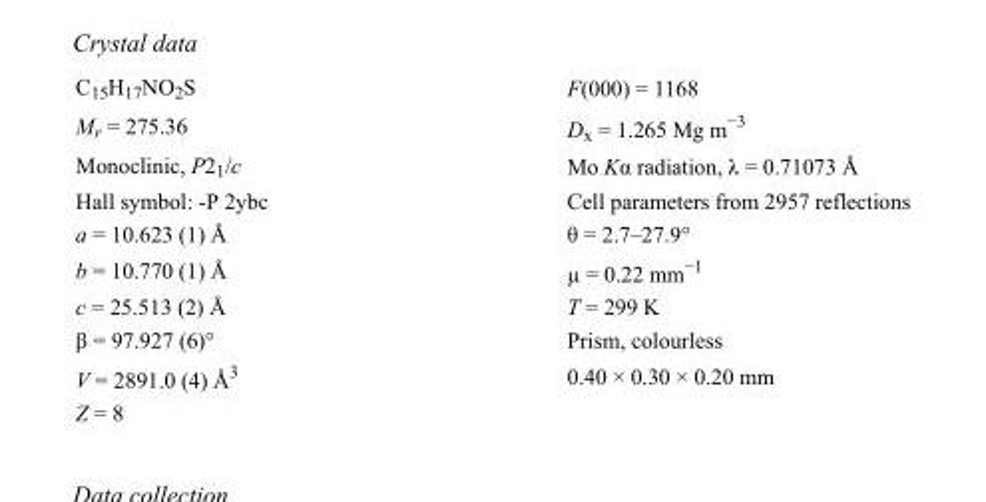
<table><tbody><tr><td>C<sub>15</sub>H<sub>17</sub>NO<sub>2</sub>S</td><td>F(000) = 1168</td></tr><tr><td>M<sub>r</sub> = 275.36</td><td>D<sub>x</sub> = 1.265 Mg m<sup>−3</sup></td></tr><tr><td>Monoclinic, P2<sub>1</sub>/c</td><td>Mo Kα radiation, λ = 0.71073 Å</td></tr><tr><td>Hall symbol: -P 2ybc</td><td>Cell parameters from 2957 reflections</td></tr><tr><td>a = 10.623 (1) Å</td><td>θ = 2.7–27.9°</td></tr><tr><td>b = 10.770 (1) Å</td><td>µ = 0.22 mm<sup>−1</sup></td></tr><tr><td>c = 25.513 (2) Å</td><td>T = 299 K</td></tr><tr><td>β = 97.927 (6)°</td><td>Prism, colourless</td></tr><tr><td>V = 2891.0 (4) Å<sup>3</sup></td><td>0.40 × 0.30 × 0.20 mm</td></tr><tr><td>Z = 8</td><td></td></tr></tbody></table>